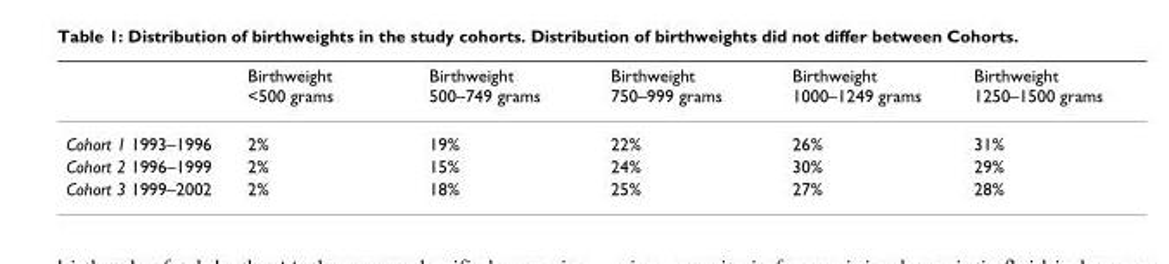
<table><thead><tr><td></td><td>Birthweight &lt;500 grams</td><td>Birthweight 500–749 grams</td><td>Birthweight 750–999 grams</td><td>Birthweight 1000–1249 grams</td><td>Birthweight 1250–1500 grams</td></tr></thead><tbody><tr><td>Cohort 1 1993–1996</td><td>2%</td><td>19%</td><td>22%</td><td>26%</td><td>31%</td></tr><tr><td>Cohort 2 1996–1999</td><td>2%</td><td>15%</td><td>24%</td><td>30%</td><td>29%</td></tr><tr><td>Cohort 3 1999–2002</td><td>2%</td><td>18%</td><td>25%</td><td>27%</td><td>28%</td></tr></tbody></table>